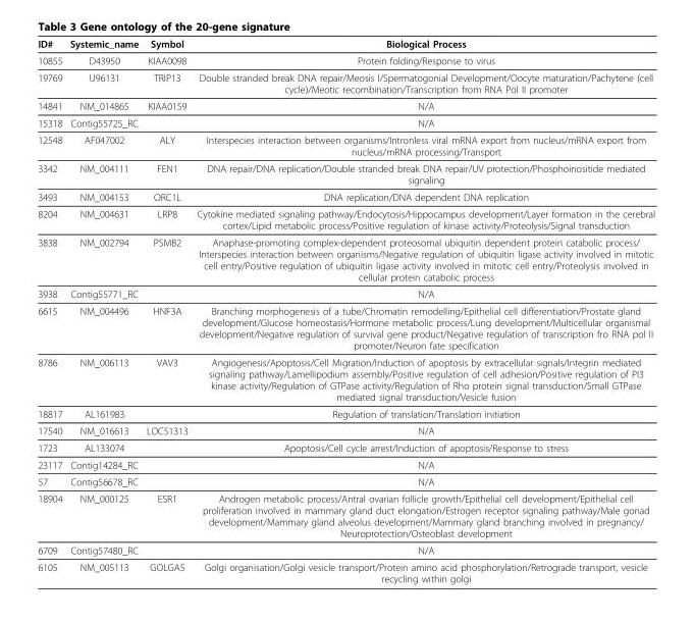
<table><thead><tr><td>ID#</td><td>Systemic_name</td><td>Symbol</td><td>Biological Process</td></tr></thead><tbody><tr><td>10855</td><td>D43950</td><td>KIAA0098</td><td>Protein folding/Response to virus</td></tr><tr><td>19769</td><td>U96131</td><td>TRIP13</td><td>Double stranded break DNA repair/Meosis I/Spermatogonial Development/Oocyte maturation/Pachytene (cell cycle)/Meotic recombination/Transcription from RNA Pol II promoter</td></tr><tr><td>14841</td><td>NM_014865</td><td>KIAA0159</td><td>N/A</td></tr><tr><td>15318</td><td>Contig55725_RC</td><td></td><td>N/A</td></tr><tr><td>12548</td><td>AF047002</td><td>ALY</td><td>Interspecies interaction between organisms/Intronless viral mRNA export from nucleus/mRNA export from nucleus/mRNA processing/Transport</td></tr><tr><td>3342</td><td>NM_004111</td><td>FEN1</td><td>DNA repair/DNA replication/Double stranded break DNA repair/UV protection/Phosphoinositide mediated signaling</td></tr><tr><td>3493</td><td>NM_004153</td><td>ORC1L</td><td>DNA replication/DNA dependent DNA replication</td></tr><tr><td>8204</td><td>NM_004631</td><td>LRP8</td><td>Cytokine mediated signaling pathway/Endocytosis/Hippocampus development/Layer formation in the cerebral cortex/Lipid metabolic process/Positive regulation of kinase activity/Proteolysis/Signal transduction</td></tr><tr><td>3838</td><td>NM_002794</td><td>PSMB2</td><td>Anaphase-promoting complex-dependent proteosomal ubiquitin dependent protein catabolic process/ Interspecies interaction between organisms/Negative regulation of ubiquitin ligase activity involved in mitotic cell entry/Positive regulation of ubiquitin ligase activity involved in mitotic cell entry/Proteolysis involved in cellular protein catabolic process</td></tr><tr><td>3938</td><td>Contig55771_RC</td><td></td><td>N/A</td></tr><tr><td>6615</td><td>NM_004496</td><td>HNF3A</td><td>Branching morphogenesis of a tube/Chromatin remodelling/Epithelial cell differentiation/Prostate gland development/Glucose homeostasis/Hormone metabolic process/Lung development/Multicellular organismal development/Negative regulation of survival gene product/Negative regulation of transcription fro RNA pol II promoter/Neuron fate specification</td></tr><tr><td>8786</td><td>NM_006113</td><td>VAV3</td><td>Angiogenesis/Apoptosis/Cell Migration/Induction of apoptosis by extracellular signals/Integrin mediated signaling pathway/Lamellipodium assembly/Positive regulation of cell adhesion/Positive regulation of PI3 kinase activity/Regulation of GTPase activity/Regulation of Rho protein signal transduction/Small GTPase mediated signal transduction/Vesicle fusion</td></tr><tr><td>18817</td><td>AL161983</td><td></td><td>Regulation of translation/Translation initiation</td></tr><tr><td>17540</td><td>NM_016613</td><td>LOC51313</td><td>N/A</td></tr><tr><td>1723</td><td>AL133074</td><td></td><td>Apoptosis/Cell cycle arrest/Induction of apoptosis/Response to stress</td></tr><tr><td>23117</td><td>Contig14284_RC</td><td></td><td>N/A</td></tr><tr><td>57</td><td>Contig56678_RC</td><td></td><td>N/A</td></tr><tr><td>18904</td><td>NM_000125</td><td>ESR1</td><td>Androgen metabolic process/Antral ovarian follicle growth/Epithelial cell development/Epithelial cell proliferation involved in mammary gland duct elongation/Estrogen receptor signaling pathway/Male gonad development/Mammary gland alveolus development/Mammary gland branching involved in pregnancy/ Neuroprotection/Osteoblast development</td></tr><tr><td>6709</td><td>Contig57480_RC</td><td></td><td>N/A</td></tr><tr><td>6105</td><td>NM_005113</td><td>GOLGA5</td><td>Golgi organisation/Golgi vesicle transport/Protein amino acid phosphorylation/Retrograde transport, vesicle recycling within golgi</td></tr></tbody></table>